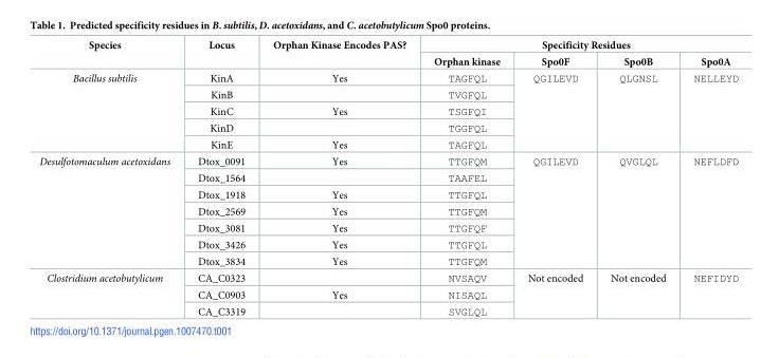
<table><thead><tr><td rowspan="2">Species</td><td rowspan="2">Locus</td><td rowspan="2">Orphan Kinase Encodes PAS?</td><td colspan="4">Specificity Residues</td></tr><tr><td>Orphan kinase</td><td>Spo0F</td><td>Spo0B</td><td>Spo0A</td></tr></thead><tbody><tr><td rowspan="5">Bacillus subtilis</td><td>KinA</td><td>Yes</td><td>TAGFQL</td><td rowspan="5">QGILEVD</td><td rowspan="5">QLGNSL</td><td rowspan="5">NELLEYD</td></tr><tr><td>KinB</td><td></td><td>TVGFQL</td></tr><tr><td>KinC</td><td>Yes</td><td>TSGFQI</td></tr><tr><td>KinD</td><td></td><td>TGGFQL</td></tr><tr><td>KinE</td><td>Yes</td><td>TAGFQL</td></tr><tr><td rowspan="7">Desulfotomaculum acetoxidans</td><td>Dtox_0091</td><td>Yes</td><td>TTGFQM</td><td rowspan="7">QGILEVD</td><td rowspan="7">QVGLQL</td><td rowspan="7">NEFLDFD</td></tr><tr><td>Dtox_1564</td><td></td><td>TAAFEL</td></tr><tr><td>Dtox_1918</td><td>Yes</td><td>TTGFQL</td></tr><tr><td>Dtox_2569</td><td>Yes</td><td>TTGFQM</td></tr><tr><td>Dtox_3081</td><td>Yes</td><td>TTGFQF</td></tr><tr><td>Dtox_3426</td><td>Yes</td><td>TTGFQL</td></tr><tr><td>Dtox_3834</td><td>Yes</td><td>TTGFQM</td></tr><tr><td rowspan="3">Clostridium acetobutylicum</td><td>CA_C0323</td><td></td><td>NVSAQV</td><td rowspan="3">Not encoded</td><td rowspan="3">Not encoded</td><td rowspan="3">NEFIDYD</td></tr><tr><td>CA_C0903</td><td>Yes</td><td>NISAQL</td></tr><tr><td>CA_C3319</td><td></td><td>SVGLQL</td></tr></tbody></table>